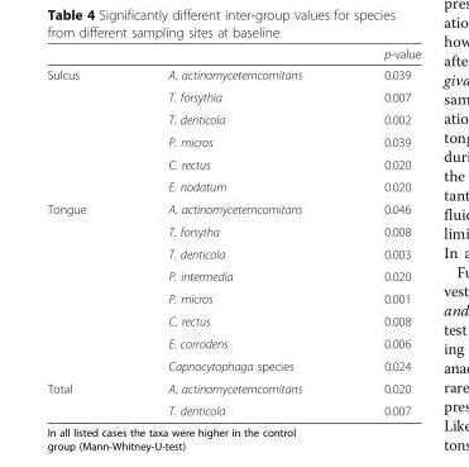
<table><thead><tr><td></td><td></td><td>p-value</td></tr></thead><tbody><tr><td rowspan="6">Sulcus</td><td>A. actinomycetemcomitans</td><td>0.039</td></tr><tr><td>T. forsythia</td><td>0.007</td></tr><tr><td>T. denticola</td><td>0.002</td></tr><tr><td>P. micros</td><td>0.039</td></tr><tr><td>C. rectus</td><td>0.020</td></tr><tr><td>E. nodatum</td><td>0.020</td></tr><tr><td rowspan="8">Tongue</td><td>A. actinomycetemcomitans</td><td>0.046</td></tr><tr><td>T. forsytha</td><td>0.008</td></tr><tr><td>T. denticola</td><td>0.003</td></tr><tr><td>P. intermedia</td><td>0.020</td></tr><tr><td>P. micros</td><td>0.001</td></tr><tr><td>C. rectus</td><td>0.008</td></tr><tr><td>E. corrodens</td><td>0.006</td></tr><tr><td>Capnocytophaga species</td><td>0.024</td></tr><tr><td rowspan="2">Total</td><td>A. actinomycetemcomitans</td><td>0.020</td></tr><tr><td>T. denticola</td><td>0.007</td></tr></tbody></table>